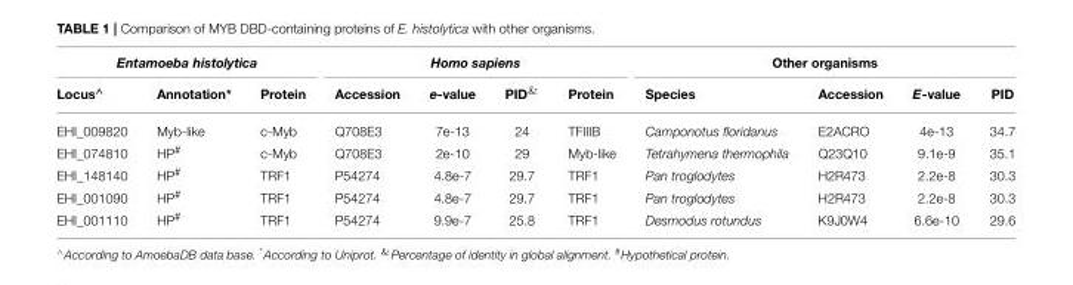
<table><thead><tr><td colspan="3">Entamoeba histolytica</td><td colspan="4">Homo sapiens</td><td colspan="4">Other organisms</td></tr><tr><td>Locus<sup>∧</sup></td><td>Annotation*</td><td>Protein</td><td>Accession</td><td>e-value</td><td>PID<sup>&amp;</sup></td><td>Protein</td><td>Species</td><td>Accession</td><td>E-value</td><td>PID</td></tr></thead><tbody><tr><td>EHI_009820</td><td>Myb-like</td><td>c-Myb</td><td>Q708E3</td><td>7e-13</td><td>24</td><td>TFIIIB</td><td>Camponotus floridanus</td><td>E2ACRO</td><td>4e-13</td><td>34.7</td></tr><tr><td>EHI_074810</td><td>HP<sup>#</sup></td><td>c-Myb</td><td>Q708E3</td><td>2e-10</td><td>29</td><td>Myb-like</td><td>Tetrahymena thermophila</td><td>Q23Q10</td><td>9.1e-9</td><td>35.1</td></tr><tr><td>EHI_148140</td><td>HP<sup>#</sup></td><td>TRF1</td><td>P54274</td><td>4.8e-7</td><td>29.7</td><td>TRF1</td><td>Pan troglodytes</td><td>H2R473</td><td>2.2e-8</td><td>30.3</td></tr><tr><td>EHI_001090</td><td>HP<sup>#</sup></td><td>TRF1</td><td>P54274</td><td>4.8e-7</td><td>29.7</td><td>TRF1</td><td>Pan troglodytes</td><td>H2R473</td><td>2.2e-8</td><td>30.3</td></tr><tr><td>EHI_001110</td><td>HP<sup>#</sup></td><td>TRF1</td><td>P54274</td><td>9.9e-7</td><td>25.8</td><td>TRF1</td><td>Desmodus rotundus</td><td>K9J0W4</td><td>6.6e-10</td><td>29.6</td></tr></tbody></table>